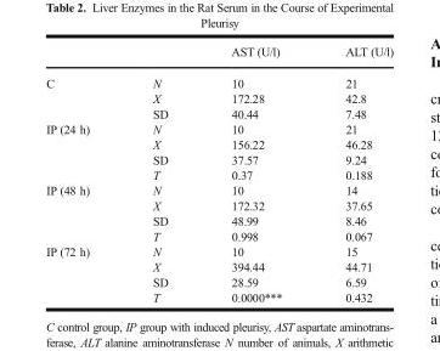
<table><thead><tr><td></td><td></td><td>AST (U/l)</td><td>ALT (U/l)</td></tr></thead><tbody><tr><td rowspan="3">C</td><td>N</td><td>10</td><td>21</td></tr><tr><td>X</td><td>172.28</td><td>42.8</td></tr><tr><td>SD</td><td>40.44</td><td>7.48</td></tr><tr><td rowspan="4">IP (24 h)</td><td>N</td><td>10</td><td>21</td></tr><tr><td>X</td><td>156.22</td><td>46.28</td></tr><tr><td>SD</td><td>37.57</td><td>9.24</td></tr><tr><td>T</td><td>0.37</td><td>0.188</td></tr><tr><td rowspan="4">IP (48 h)</td><td>N</td><td>10</td><td>14</td></tr><tr><td>X</td><td>172.32</td><td>37.65</td></tr><tr><td>SD</td><td>48.99</td><td>8.46</td></tr><tr><td>T</td><td>0.998</td><td>0.067</td></tr><tr><td rowspan="4">IP (72 h)</td><td>N</td><td>10</td><td>15</td></tr><tr><td>X</td><td>394.44</td><td>44.71</td></tr><tr><td>SD</td><td>28.59</td><td>6.59</td></tr><tr><td>T</td><td>0.0000***</td><td>0.432</td></tr></tbody></table>